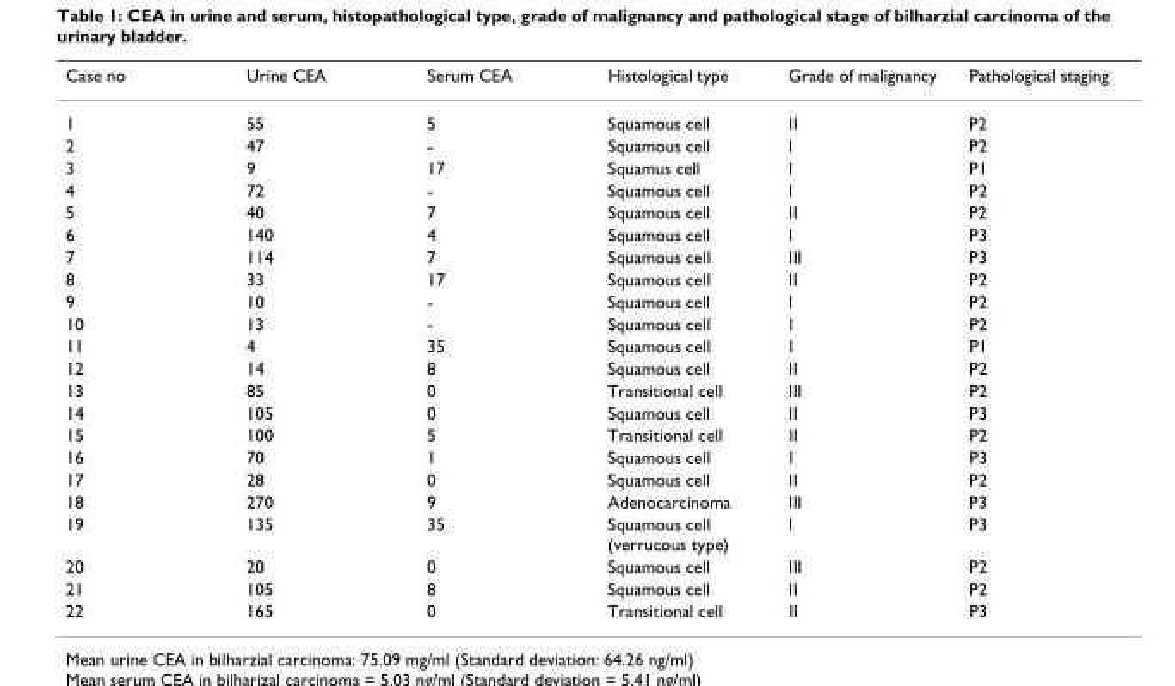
<table><thead><tr><td>Case no</td><td>Urine CEA</td><td>Serum CEA</td><td>Histological type</td><td>Grade of malignancy</td><td>Pathological staging</td></tr></thead><tbody><tr><td>1</td><td>55</td><td>5</td><td>Squamous cell</td><td>II</td><td>P2</td></tr><tr><td>2</td><td>47</td><td>-</td><td>Squamous cell</td><td>I</td><td>P2</td></tr><tr><td>3</td><td>9</td><td>17</td><td>Squamus cell</td><td>I</td><td>P1</td></tr><tr><td>4</td><td>72</td><td>-</td><td>Squamous cell</td><td>I</td><td>P2</td></tr><tr><td>5</td><td>40</td><td>7</td><td>Squamous cell</td><td>II</td><td>P2</td></tr><tr><td>6</td><td>140</td><td>4</td><td>Squamous cell</td><td>I</td><td>P3</td></tr><tr><td>7</td><td>114</td><td>7</td><td>Squamous cell</td><td>III</td><td>P3</td></tr><tr><td>8</td><td>33</td><td>17</td><td>Squamous cell</td><td>II</td><td>P2</td></tr><tr><td>9</td><td>10</td><td>-</td><td>Squamous cell</td><td>I</td><td>P2</td></tr><tr><td>10</td><td>13</td><td>-</td><td>Squamous cell</td><td>I</td><td>P2</td></tr><tr><td>11</td><td>4</td><td>35</td><td>Squamous cell</td><td>I</td><td>P1</td></tr><tr><td>12</td><td>14</td><td>8</td><td>Squamous cell</td><td>II</td><td>P2</td></tr><tr><td>13</td><td>85</td><td>0</td><td>Transitional cell</td><td>III</td><td>P2</td></tr><tr><td>14</td><td>105</td><td>0</td><td>Squamous cell</td><td>II</td><td>P3</td></tr><tr><td>15</td><td>100</td><td>5</td><td>Transitional cell</td><td>II</td><td>P2</td></tr><tr><td>16</td><td>70</td><td>1</td><td>Squamous cell</td><td>I</td><td>P3</td></tr><tr><td>17</td><td>28</td><td>0</td><td>Squamous cell</td><td>II</td><td>P2</td></tr><tr><td>18</td><td>270</td><td>9</td><td>Adenocarcinoma</td><td>III</td><td>P3</td></tr><tr><td>19</td><td>135</td><td>35</td><td>Squamous cell (verrucous type)</td><td>I</td><td>P3</td></tr><tr><td>20</td><td>20</td><td>0</td><td>Squamous cell</td><td>III</td><td>P2</td></tr><tr><td>21</td><td>105</td><td>8</td><td>Squamous cell</td><td>II</td><td>P2</td></tr><tr><td>22</td><td>165</td><td>0</td><td>Transitional cell</td><td>II</td><td>P3</td></tr></tbody></table>